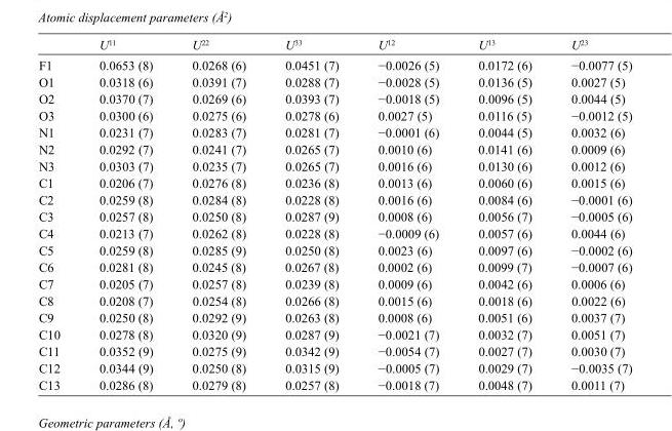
<table><thead><tr><td></td><td>U<sup>11</sup></td><td>U<sup>22</sup></td><td>U<sup>33</sup></td><td>U<sup>12</sup></td><td>U<sup>13</sup></td><td>U<sup>23</sup></td></tr></thead><tbody><tr><td>F1</td><td>0.0653 (8)</td><td>0.0268 (6)</td><td>0.0451 (7)</td><td>−0.0026 (5)</td><td>0.0172 (6)</td><td>−0.0077 (5)</td></tr><tr><td>O1</td><td>0.0318 (6)</td><td>0.0391 (7)</td><td>0.0288 (7)</td><td>−0.0028 (5)</td><td>0.0136 (5)</td><td>0.0027 (5)</td></tr><tr><td>O2</td><td>0.0370 (7)</td><td>0.0269 (6)</td><td>0.0393 (7)</td><td>−0.0018 (5)</td><td>0.0096 (5)</td><td>0.0044 (5)</td></tr><tr><td>O3</td><td>0.0300 (6)</td><td>0.0275 (6)</td><td>0.0278 (6)</td><td>0.0027 (5)</td><td>0.0116 (5)</td><td>−0.0012 (5)</td></tr><tr><td>N1</td><td>0.0231 (7)</td><td>0.0283 (7)</td><td>0.0281 (7)</td><td>−0.0001 (6)</td><td>0.0044 (5)</td><td>0.0032 (6)</td></tr><tr><td>N2</td><td>0.0292 (7)</td><td>0.0241 (7)</td><td>0.0265 (7)</td><td>0.0010 (6)</td><td>0.0141 (6)</td><td>0.0009 (6)</td></tr><tr><td>N3</td><td>0.0303 (7)</td><td>0.0235 (7)</td><td>0.0265 (7)</td><td>0.0016 (6)</td><td>0.0130 (6)</td><td>0.0012 (6)</td></tr><tr><td>C1</td><td>0.0206 (7)</td><td>0.0276 (8)</td><td>0.0236 (8)</td><td>0.0013 (6)</td><td>0.0060 (6)</td><td>0.0015 (6)</td></tr><tr><td>C2</td><td>0.0259 (8)</td><td>0.0284 (8)</td><td>0.0228 (8)</td><td>0.0016 (6)</td><td>0.0084 (6)</td><td>−0.0001 (6)</td></tr><tr><td>C3</td><td>0.0257 (8)</td><td>0.0250 (8)</td><td>0.0287 (9)</td><td>0.0008 (6)</td><td>0.0056 (7)</td><td>−0.0005 (6)</td></tr><tr><td>C4</td><td>0.0213 (7)</td><td>0.0262 (8)</td><td>0.0228 (8)</td><td>−0.0009 (6)</td><td>0.0057 (6)</td><td>0.0044 (6)</td></tr><tr><td>C5</td><td>0.0259 (8)</td><td>0.0285 (9)</td><td>0.0250 (8)</td><td>0.0023 (6)</td><td>0.0097 (6)</td><td>−0.0002 (6)</td></tr><tr><td>C6</td><td>0.0281 (8)</td><td>0.0245 (8)</td><td>0.0267 (8)</td><td>0.0002 (6)</td><td>0.0099 (7)</td><td>−0.0007 (6)</td></tr><tr><td>C7</td><td>0.0205 (7)</td><td>0.0257 (8)</td><td>0.0239 (8)</td><td>0.0009 (6)</td><td>0.0042 (6)</td><td>0.0006 (6)</td></tr><tr><td>C8</td><td>0.0208 (7)</td><td>0.0254 (8)</td><td>0.0266 (8)</td><td>0.0015 (6)</td><td>0.0018 (6)</td><td>0.0022 (6)</td></tr><tr><td>C9</td><td>0.0250 (8)</td><td>0.0292 (9)</td><td>0.0263 (8)</td><td>0.0008 (6)</td><td>0.0051 (6)</td><td>0.0037 (7)</td></tr><tr><td>C10</td><td>0.0278 (8)</td><td>0.0320 (9)</td><td>0.0287 (9)</td><td>−0.0021 (7)</td><td>0.0032 (7)</td><td>0.0051 (7)</td></tr><tr><td>C11</td><td>0.0352 (9)</td><td>0.0275 (9)</td><td>0.0342 (9)</td><td>−0.0054 (7)</td><td>0.0027 (7)</td><td>0.0030 (7)</td></tr><tr><td>C12</td><td>0.0344 (9)</td><td>0.0250 (8)</td><td>0.0315 (9)</td><td>−0.0005 (7)</td><td>0.0029 (7)</td><td>−0.0035 (7)</td></tr><tr><td>C13</td><td>0.0286 (8)</td><td>0.0279 (8)</td><td>0.0257 (8)</td><td>−0.0018 (7)</td><td>0.0048 (7)</td><td>0.0011 (7)</td></tr></tbody></table>